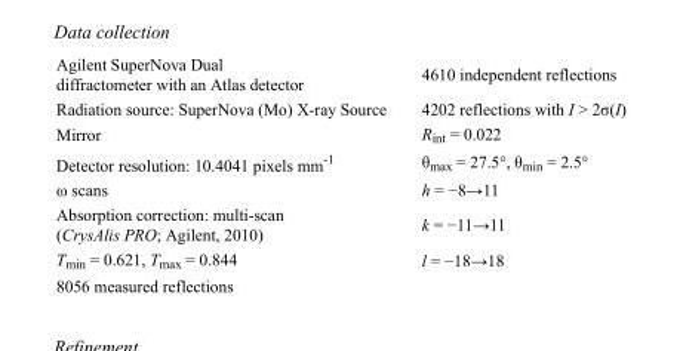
<table><tbody><tr><td>Agilent SuperNova Dual diffractometer with an Atlas detector</td><td>4610 independent reflections</td></tr><tr><td>Radiation source: SuperNova (Mo) X-ray Source</td><td>4202 reflections with I &gt; 2σ(I)</td></tr><tr><td>Mirror</td><td>R<sub>int</sub> = 0.022</td></tr><tr><td>Detector resolution: 10.4041 pixels mm<sup>-1</sup></td><td>θ<sub>max</sub> = 27.5°, θ<sub>min</sub> = 2.5°</td></tr><tr><td>ω scans</td><td>h = −8→11</td></tr><tr><td>Absorption correction: multi-scan (CrysAlis PRO; Agilent, 2010)</td><td>k = −11→11</td></tr><tr><td>T<sub>min</sub> = 0.621, T<sub>max</sub> = 0.844</td><td>l = −18→18</td></tr><tr><td>8056 measured reflections</td><td></td></tr></tbody></table>